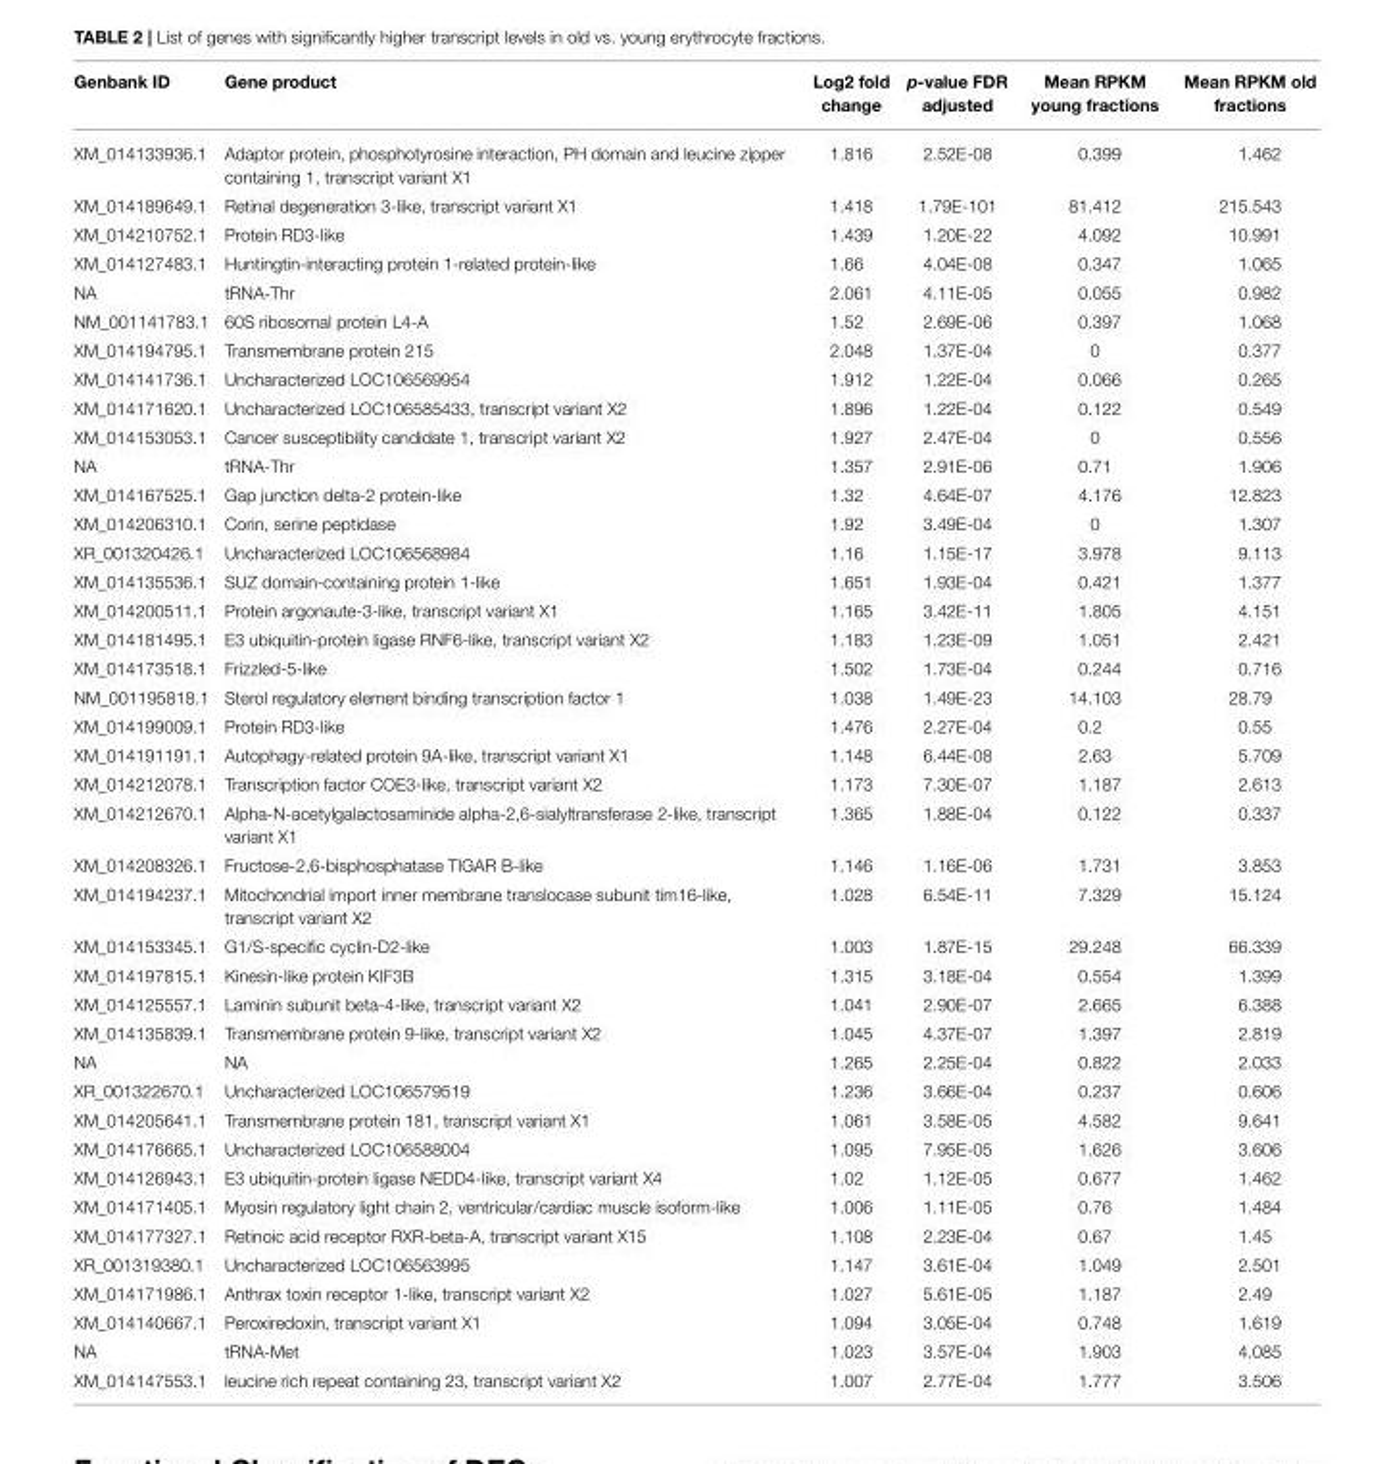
<table><thead><tr><td>Genbank ID</td><td>Gene product</td><td>Log2 fold change</td><td>p-value FDR adjusted</td><td>Mean RPKM young fractions</td><td>Mean RPKM old fractions</td></tr></thead><tbody><tr><td>XM_014133936.1</td><td>Adaptor protein, phosphotyrosine interaction, PH domain and leucine zipper containing 1, transcript variant X1</td><td>1.816</td><td>2.52E-08</td><td>0.399</td><td>1.462</td></tr><tr><td>XM_014189649.1</td><td>Retinal degeneration 3-like, transcript variant X1</td><td>1.418</td><td>1.79E-101</td><td>81.412</td><td>215.543</td></tr><tr><td>XM_014210752.1</td><td>Protein RD3-like</td><td>1.439</td><td>1.20E-22</td><td>4.092</td><td>10.991</td></tr><tr><td>XM_014127483.1</td><td>Huntingtin-interacting protein 1-related protein-like</td><td>1.66</td><td>4.04E-08</td><td>0.347</td><td>1.065</td></tr><tr><td>NA</td><td>tRNA-Thr</td><td>2.061</td><td>4.11E-05</td><td>0.055</td><td>0.982</td></tr><tr><td>NM_001141783.1</td><td>60S ribosomal protein L4-A</td><td>1.52</td><td>2.69E-06</td><td>0.397</td><td>1.068</td></tr><tr><td>XM_014194795.1</td><td>Transmembrane protein 215</td><td>2.048</td><td>1.37E-04</td><td>0</td><td>0.377</td></tr><tr><td>XM_014141736.1</td><td>Uncharacterized LOC106569954</td><td>1.912</td><td>1.22E-04</td><td>0.066</td><td>0.265</td></tr><tr><td>XM_014171620.1</td><td>Uncharacterized LOC106585433, transcript variant X2</td><td>1.896</td><td>1.22E-04</td><td>0.122</td><td>0.549</td></tr><tr><td>XM_014153053.1</td><td>Cancer susceptibility candidate 1, transcript variant X2</td><td>1.927</td><td>2.47E-04</td><td>0</td><td>0.556</td></tr><tr><td>NA</td><td>tRNA-Thr</td><td>1.357</td><td>2.91E-06</td><td>0.71</td><td>1.906</td></tr><tr><td>XM_014167525.1</td><td>Gap junction delta-2 protein-like</td><td>1.32</td><td>4.64E-07</td><td>4.176</td><td>12.823</td></tr><tr><td>XM_014206310.1</td><td>Corin, serine peptidase</td><td>1.92</td><td>3.49E-04</td><td>0</td><td>1.307</td></tr><tr><td>XR_001320426.1</td><td>Uncharacterized LOC106568984</td><td>1.16</td><td>1.15E-17</td><td>3.978</td><td>9.113</td></tr><tr><td>XM_014135536.1</td><td>SUZ domain-containing protein 1-like</td><td>1.651</td><td>1.93E-04</td><td>0.421</td><td>1.377</td></tr><tr><td>XM_014200511.1</td><td>Protein argonaute-3-like, transcript variant X1</td><td>1.165</td><td>3.42E-11</td><td>1.805</td><td>4.151</td></tr><tr><td>XM_014181495.1</td><td>E3 ubiquitin-protein ligase RNF6-like, transcript variant X2</td><td>1.183</td><td>1.23E-09</td><td>1.051</td><td>2.421</td></tr><tr><td>XM_014173518.1</td><td>Frizzled-5-like</td><td>1.502</td><td>1.73E-04</td><td>0.244</td><td>0.716</td></tr><tr><td>NM_001195818.1</td><td>Sterol regulatory element binding transcription factor 1</td><td>1.038</td><td>1.49E-23</td><td>14.103</td><td>28.79</td></tr><tr><td>XM_014199009.1</td><td>Protein RD3-like</td><td>1.476</td><td>2.27E-04</td><td>0.2</td><td>0.55</td></tr><tr><td>XM_014191191.1</td><td>Autophagy-related protein 9A-like, transcript variant X1</td><td>1.148</td><td>6.44E-08</td><td>2.63</td><td>5.709</td></tr><tr><td>XM_014212078.1</td><td>Transcription factor COE3-like, transcript variant X2</td><td>1.173</td><td>7.30E-07</td><td>1.187</td><td>2.613</td></tr><tr><td>XM_014212670.1</td><td>Alpha-N-acetylgalactosaminide alpha-2,6-sialyltransferase 2-like, transcript variant X1</td><td>1.365</td><td>1.88E-04</td><td>0.122</td><td>0.337</td></tr><tr><td>XM_014208326.1</td><td>Fructose-2,6-bisphosphatase TIGAR B-like</td><td>1.146</td><td>1.16E-06</td><td>1.731</td><td>3.853</td></tr><tr><td>XM_014194237.1</td><td>Mitochondrial import inner membrane translocase subunit tim16-like, transcript variant X2</td><td>1.028</td><td>6.54E-11</td><td>7.329</td><td>15.124</td></tr><tr><td>XM_014153345.1</td><td>G1/S-specific cyclin-D2-like</td><td>1.003</td><td>1.87E-15</td><td>29.248</td><td>66.339</td></tr><tr><td>XM_014197815.1</td><td>Kinesin-like protein KIF3B</td><td>1.315</td><td>3.18E-04</td><td>0.554</td><td>1.399</td></tr><tr><td>XM_014125557.1</td><td>Laminin subunit beta-4-like, transcript variant X2</td><td>1.041</td><td>2.90E-07</td><td>2.665</td><td>6.388</td></tr><tr><td>XM_014135839.1</td><td>Transmembrane protein 9-like, transcript variant X2</td><td>1.045</td><td>4.37E-07</td><td>1.397</td><td>2.819</td></tr><tr><td>NA</td><td>NA</td><td>1.265</td><td>2.25E-04</td><td>0.822</td><td>2.033</td></tr><tr><td>XR_001322670.1</td><td>Uncharacterized LOC106579519</td><td>1.236</td><td>3.66E-04</td><td>0.237</td><td>0.606</td></tr><tr><td>XM_014205641.1</td><td>Transmembrane protein 181, transcript variant X1</td><td>1.061</td><td>3.58E-05</td><td>4.582</td><td>9.641</td></tr><tr><td>XM_014176665.1</td><td>Uncharacterized LOC106588004</td><td>1.095</td><td>7.95E-05</td><td>1.626</td><td>3.606</td></tr><tr><td>XM_014126943.1</td><td>E3 ubiquitin-protein ligase NEDD4-like, transcript variant X4</td><td>1.02</td><td>1.12E-05</td><td>0.677</td><td>1.462</td></tr><tr><td>XM_014171405.1</td><td>Myosin regulatory light chain 2, ventricular/cardiac muscle isoform-like</td><td>1.006</td><td>1.11E-05</td><td>0.76</td><td>1.484</td></tr><tr><td>XM_014177327.1</td><td>Retinoic acid receptor RXR-beta-A, transcript variant X15</td><td>1.108</td><td>2.23E-04</td><td>0.67</td><td>1.45</td></tr><tr><td>XR_001319380.1</td><td>Uncharacterized LOC106563995</td><td>1.147</td><td>3.61E-04</td><td>1.049</td><td>2.501</td></tr><tr><td>XM_014171986.1</td><td>Anthrax toxin receptor 1-like, transcript variant X2</td><td>1.027</td><td>5.61E-05</td><td>1.187</td><td>2.49</td></tr><tr><td>XM_014140667.1</td><td>Peroxiredoxin, transcript variant X1</td><td>1.094</td><td>3.05E-04</td><td>0.748</td><td>1.619</td></tr><tr><td>NA</td><td>tRNA-Met</td><td>1.023</td><td>3.57E-04</td><td>1.903</td><td>4.085</td></tr><tr><td>XM_014147553.1</td><td>leucine rich repeat containing 23, transcript variant X2</td><td>1.007</td><td>2.77E-04</td><td>1.777</td><td>3.506</td></tr></tbody></table>